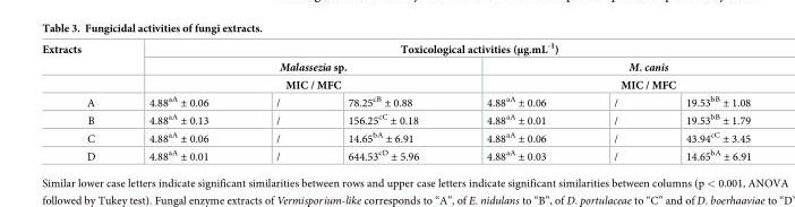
<table><thead><tr><td rowspan="4">Extracts A</td><td colspan="6">Toxicological activities (μg.mL<sup>-1</sup>)</td></tr><tr><td rowspan="2" colspan="3">Malassezia sp. MIC / MFC</td><td rowspan="2" colspan="3">M. canis MIC / MFC</td></tr><tr></tr><tr><td>4.88<sup>aA</sup> ± 0.06</td><td>/</td><td>78.25<sup>cB</sup> ± 0.88</td><td>4.88<sup>aA</sup> ± 0.06</td><td>/</td><td>19.53<sup>bB</sup> ± 1.08</td></tr></thead><tbody><tr><td>B</td><td>4.88<sup>aA</sup> ± 0.13</td><td>/</td><td>156.25<sup>cC</sup> ± 0.18</td><td>4.88<sup>aA</sup> ± 0.01</td><td>/</td><td>19.53<sup>bB</sup> ± 1.79</td></tr><tr><td>C</td><td>4.88<sup>aA</sup> ± 0.06</td><td>/</td><td>14.65<sup>bA</sup> ± 6.91</td><td>4.88<sup>aA</sup> ± 0.06</td><td>/</td><td>43.94<sup>cC</sup> ± 3.45</td></tr><tr><td>D</td><td>4.88<sup>aA</sup> ± 0.01</td><td>/</td><td>644.53<sup>cD</sup> ± 5.96</td><td>4.88<sup>aA</sup> ± 0.03</td><td>/</td><td>14.65<sup>bA</sup> ± 6.91</td></tr></tbody></table>